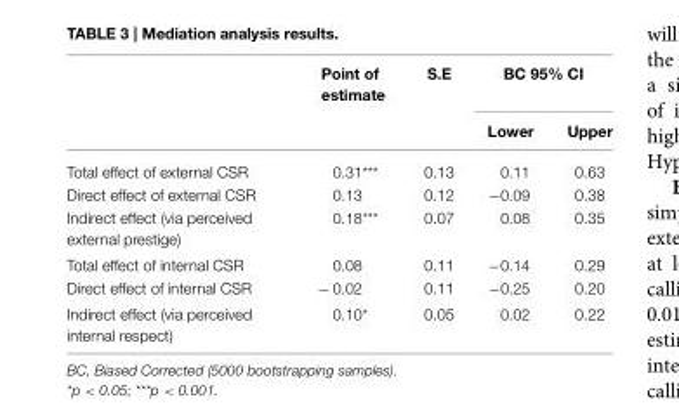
<table><thead><tr><td rowspan="2"></td><td rowspan="2">Point of estimate</td><td rowspan="2">S.E</td><td colspan="2">BC 95% CI</td></tr><tr><td>Lower</td><td>Upper</td></tr></thead><tbody><tr><td>Total effect of external CSR</td><td>0.31***</td><td>0.13</td><td>0.11</td><td>0.63</td></tr><tr><td>Direct effect of external CSR</td><td>0.13</td><td>0.12</td><td>−0.09</td><td>0.38</td></tr><tr><td>Indirect effect (via perceived external prestige)</td><td>0.18***</td><td>0.07</td><td>0.08</td><td>0.35</td></tr><tr><td>Total effect of internal CSR</td><td>0.08</td><td>0.11</td><td>−0.14</td><td>0.29</td></tr><tr><td>Direct effect of internal CSR</td><td>− 0.02</td><td>0.11</td><td>−0.25</td><td>0.20</td></tr><tr><td>Indirect effect (via perceived internal respect)</td><td>0.10*</td><td>0.05</td><td>0.02</td><td>0.22</td></tr></tbody></table>